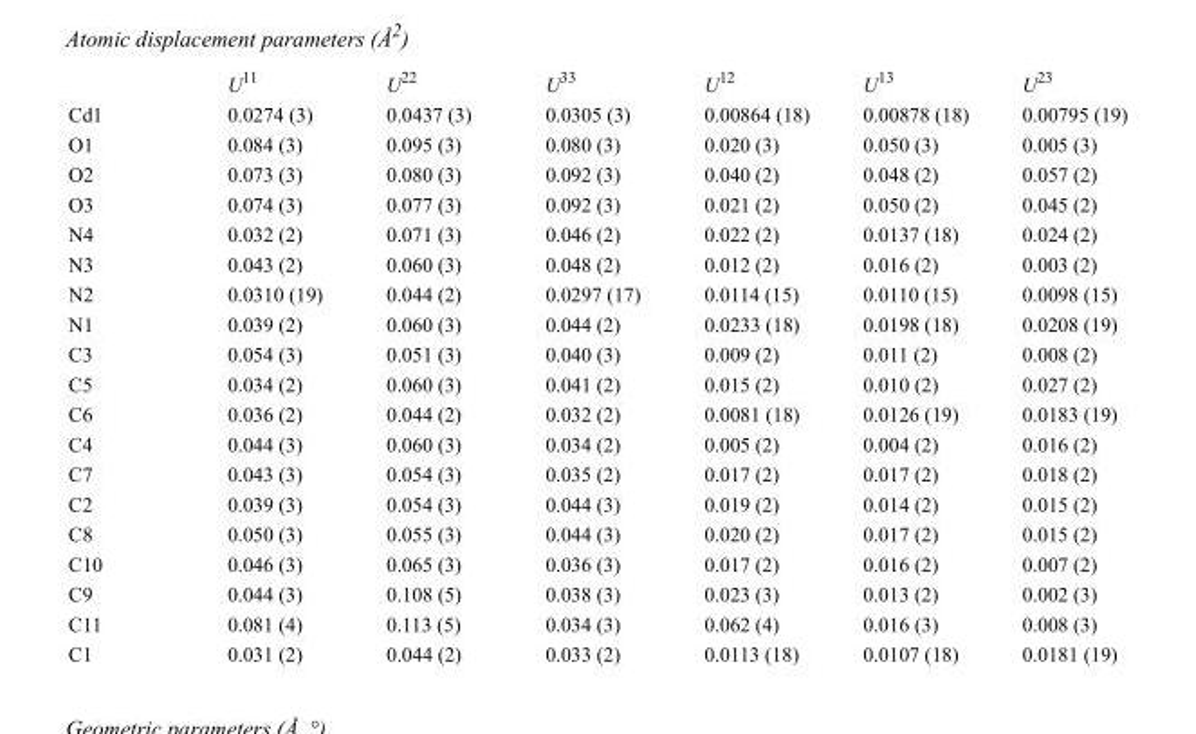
<table><thead><tr><td></td><td>U<sup>11</sup></td><td>U<sup>22</sup></td><td>U<sup>33</sup></td><td>U<sup>12</sup></td><td>U<sup>13</sup></td><td>U<sup>23</sup></td></tr></thead><tbody><tr><td>Cd1</td><td>0.0274 (3)</td><td>0.0437 (3)</td><td>0.0305 (3)</td><td>0.00864 (18)</td><td>0.00878 (18)</td><td>0.00795 (19)</td></tr><tr><td>O1</td><td>0.084 (3)</td><td>0.095 (3)</td><td>0.080 (3)</td><td>0.020 (3)</td><td>0.050 (3)</td><td>0.005 (3)</td></tr><tr><td>O2</td><td>0.073 (3)</td><td>0.080 (3)</td><td>0.092 (3)</td><td>0.040 (2)</td><td>0.048 (2)</td><td>0.057 (2)</td></tr><tr><td>O3</td><td>0.074 (3)</td><td>0.077 (3)</td><td>0.092 (3)</td><td>0.021 (2)</td><td>0.050 (2)</td><td>0.045 (2)</td></tr><tr><td>N4</td><td>0.032 (2)</td><td>0.071 (3)</td><td>0.046 (2)</td><td>0.022 (2)</td><td>0.0137 (18)</td><td>0.024 (2)</td></tr><tr><td>N3</td><td>0.043 (2)</td><td>0.060 (3)</td><td>0.048 (2)</td><td>0.012 (2)</td><td>0.016 (2)</td><td>0.003 (2)</td></tr><tr><td>N2</td><td>0.0310 (19)</td><td>0.044 (2)</td><td>0.0297 (17)</td><td>0.0114 (15)</td><td>0.0110 (15)</td><td>0.0098 (15)</td></tr><tr><td>N1</td><td>0.039 (2)</td><td>0.060 (3)</td><td>0.044 (2)</td><td>0.0233 (18)</td><td>0.0198 (18)</td><td>0.0208 (19)</td></tr><tr><td>C3</td><td>0.054 (3)</td><td>0.051 (3)</td><td>0.040 (3)</td><td>0.009 (2)</td><td>0.011 (2)</td><td>0.008 (2)</td></tr><tr><td>C5</td><td>0.034 (2)</td><td>0.060 (3)</td><td>0.041 (2)</td><td>0.015 (2)</td><td>0.010 (2)</td><td>0.027 (2)</td></tr><tr><td>C6</td><td>0.036 (2)</td><td>0.044 (2)</td><td>0.032 (2)</td><td>0.0081 (18)</td><td>0.0126 (19)</td><td>0.0183 (19)</td></tr><tr><td>C4</td><td>0.044 (3)</td><td>0.060 (3)</td><td>0.034 (2)</td><td>0.005 (2)</td><td>0.004 (2)</td><td>0.016 (2)</td></tr><tr><td>C7</td><td>0.043 (3)</td><td>0.054 (3)</td><td>0.035 (2)</td><td>0.017 (2)</td><td>0.017 (2)</td><td>0.018 (2)</td></tr><tr><td>C2</td><td>0.039 (3)</td><td>0.054 (3)</td><td>0.044 (3)</td><td>0.019 (2)</td><td>0.014 (2)</td><td>0.015 (2)</td></tr><tr><td>C8</td><td>0.050 (3)</td><td>0.055 (3)</td><td>0.044 (3)</td><td>0.020 (2)</td><td>0.017 (2)</td><td>0.015 (2)</td></tr><tr><td>C10</td><td>0.046 (3)</td><td>0.065 (3)</td><td>0.036 (3)</td><td>0.017 (2)</td><td>0.016 (2)</td><td>0.007 (2)</td></tr><tr><td>C9</td><td>0.044 (3)</td><td>0.108 (5)</td><td>0.038 (3)</td><td>0.023 (3)</td><td>0.013 (2)</td><td>0.002 (3)</td></tr><tr><td>C11</td><td>0.081 (4)</td><td>0.113 (5)</td><td>0.034 (3)</td><td>0.062 (4)</td><td>0.016 (3)</td><td>0.008 (3)</td></tr><tr><td>C1</td><td>0.031 (2)</td><td>0.044 (2)</td><td>0.033 (2)</td><td>0.0113 (18)</td><td>0.0107 (18)</td><td>0.0181 (19)</td></tr></tbody></table>